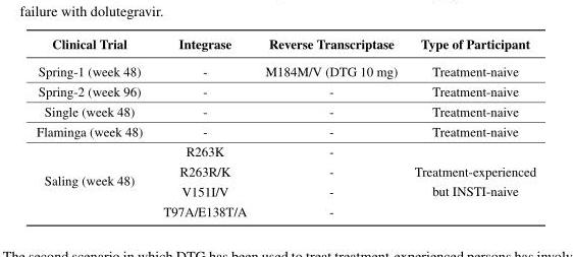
<table><thead><tr><td>Clinical Trial</td><td>Integrase</td><td>Reverse Transcriptase</td><td>Type of Participant</td></tr></thead><tbody><tr><td>Spring-1 (week 48)</td><td>-</td><td>M184M/V (DTG 10 mg)</td><td>Treatment-naive</td></tr><tr><td>Spring-2 (week 96)</td><td>-</td><td>-</td><td>Treatment-naive</td></tr><tr><td>Single (week 48)</td><td>-</td><td>-</td><td>Treatment-naive</td></tr><tr><td>Flaminga (week 48)</td><td>-</td><td>-</td><td>Treatment-naive</td></tr><tr><td rowspan="4">Saling (week 48)</td><td>R263K</td><td>-</td><td rowspan="4">Treatment-experienced but INSTI-naive</td></tr><tr><td>R263R/K</td><td>-</td></tr><tr><td>V151I/V</td><td>-</td></tr><tr><td>T97A/E138T/A</td><td>-</td></tr></tbody></table>